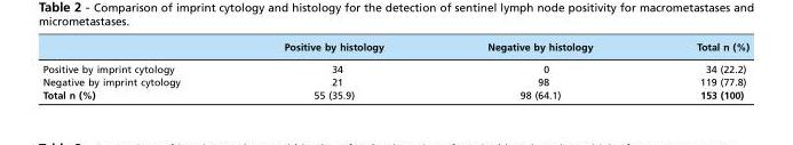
<table><thead><tr><td></td><td>Positive by histology</td><td>Negative by histology</td><td>Total n (%)</td></tr></thead><tbody><tr><td>Positive by imprint cytology</td><td>34</td><td>0</td><td>34 (22.2)</td></tr><tr><td>Negative by imprint cytology</td><td>21</td><td>98</td><td>119 (77.8)</td></tr><tr><td>Total n (%)</td><td>55 (35.9)</td><td>98 (64.1)</td><td>153 (100)</td></tr></tbody></table>